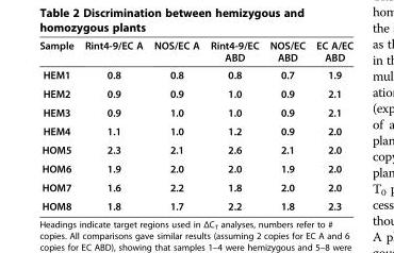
<table><thead><tr><td>Sample</td><td>Rint4-9/EC A</td><td>NOS/EC A</td><td>Rint4-9/EC ABD</td><td>NOS/EC ABD</td><td>EC A/EC ABD</td></tr></thead><tbody><tr><td>HEM1</td><td>0.8</td><td>0.8</td><td>0.8</td><td>0.7</td><td>1.9</td></tr><tr><td>HEM2</td><td>0.9</td><td>0.9</td><td>1.0</td><td>0.9</td><td>2.1</td></tr><tr><td>HEM3</td><td>0.9</td><td>1.0</td><td>1.0</td><td>0.9</td><td>2.1</td></tr><tr><td>HEM4</td><td>1.1</td><td>1.0</td><td>1.2</td><td>0.9</td><td>2.0</td></tr><tr><td>HOM5</td><td>2.3</td><td>2.1</td><td>2.6</td><td>2.1</td><td>2.0</td></tr><tr><td>HOM6</td><td>1.9</td><td>2.0</td><td>2.0</td><td>1.9</td><td>2.0</td></tr><tr><td>HOM7</td><td>1.6</td><td>2.2</td><td>1.8</td><td>2.0</td><td>2.0</td></tr><tr><td>HOM8</td><td>1.8</td><td>1.7</td><td>2.2</td><td>1.8</td><td>2.3</td></tr></tbody></table>